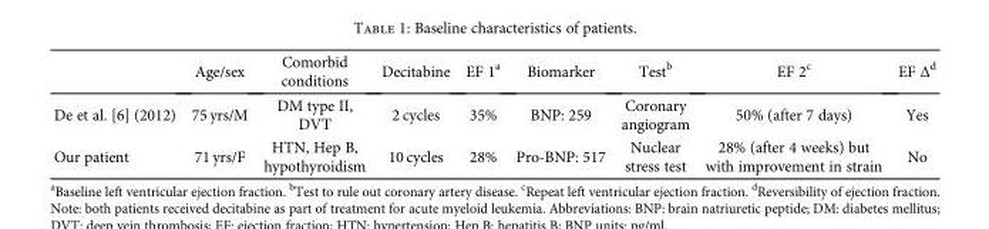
<table><thead><tr><td></td><td>Age/sex</td><td>Comorbid conditions</td><td>Decitabine</td><td>EF 1<sup>a</sup></td><td>Biomarker</td><td>Test<sup>b</sup></td><td>EF 2<sup>c</sup></td><td>EF Δ<sup>d</sup></td></tr></thead><tbody><tr><td>De et al. [6] (2012)</td><td>75 yrs/M</td><td>DM type II, DVT</td><td>2 cycles</td><td>35%</td><td>BNP: 259</td><td>Coronary angiogram</td><td>50% (after 7 days)</td><td>Yes</td></tr><tr><td>Our patient</td><td>71 yrs/F</td><td>HTN, Hep B, hypothyroidism</td><td>10 cycles</td><td>28%</td><td>Pro-BNP: 517</td><td>Nuclear stress test</td><td>28% (after 4 weeks) but with improvement in strain</td><td>No</td></tr></tbody></table>